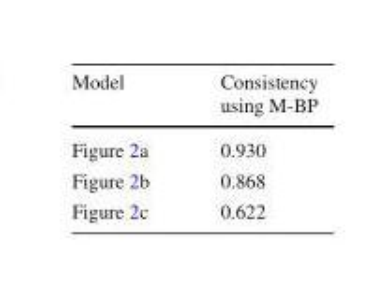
<table><thead><tr><td>Model</td><td>Consistency using M-BP</td></tr></thead><tbody><tr><td>Figure 2a</td><td>0.930</td></tr><tr><td>Figure 2b</td><td>0.868</td></tr><tr><td>Figure 2c</td><td>0.622</td></tr></tbody></table>